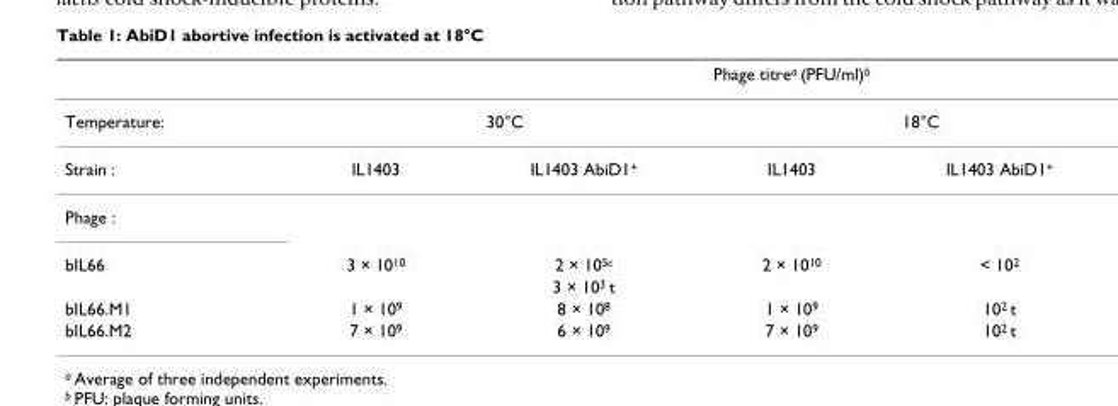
<table><thead><tr><td rowspan="3">Temperature: Strain :</td><td></td><td colspan="3">Phage titrea (PFU/ml)b</td></tr><tr><td colspan="2">30°C</td><td colspan="2">18°C</td></tr><tr><td>IL1403</td><td>IL1403 AbiD1<sup>+</sup></td><td>IL1403</td><td>IL1403 AbiD1<sup>+</sup></td></tr></thead><tbody><tr><td colspan="5">Phage :</td></tr><tr><td rowspan="2">bIL66</td><td>3 × 10<sup>10</sup></td><td>2 × 10<sup>5c</sup></td><td>2 × 10<sup>10</sup></td><td>&lt; 10<sup>2</sup></td></tr><tr><td></td><td>3 × 10<sup>3</sup> t</td><td></td><td></td></tr><tr><td>bIL66.M1</td><td>1 × 10<sup>9</sup></td><td>8 × 10<sup>8</sup></td><td>1 × 10<sup>9</sup></td><td>10<sup>2</sup> t</td></tr><tr><td>bIL66.M2</td><td>7 × 10<sup>9</sup></td><td>6 × 10<sup>9</sup></td><td>7 × 10<sup>9</sup></td><td>10<sup>2</sup> t</td></tr></tbody></table>